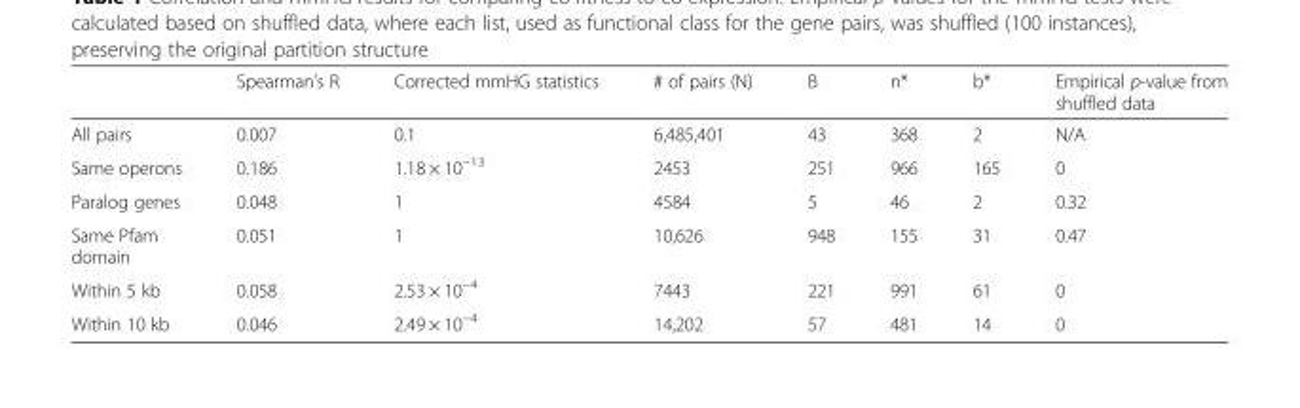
<table><thead><tr><td></td><td>Spearman’s R</td><td>Corrected mmHG statistics</td><td># of pairs (N)</td><td>B</td><td>n*</td><td>b*</td><td>Empirical p-value from shuffled data</td></tr></thead><tbody><tr><td>All pairs</td><td>0.007</td><td>0.1</td><td>6,485,401</td><td>43</td><td>368</td><td>2</td><td>N/A</td></tr><tr><td>Same operons</td><td>0.186</td><td>1.18 × 10<sup>−13</sup></td><td>2453</td><td>251</td><td>966</td><td>165</td><td>0</td></tr><tr><td>Paralog genes</td><td>0.048</td><td>1</td><td>4584</td><td>5</td><td>46</td><td>2</td><td>0.32</td></tr><tr><td>Same Pfam domain</td><td>0.051</td><td>1</td><td>10,626</td><td>948</td><td>155</td><td>31</td><td>0.47</td></tr><tr><td>Within 5 kb</td><td>0.058</td><td>2.53 × 10<sup>−4</sup></td><td>7443</td><td>221</td><td>991</td><td>61</td><td>0</td></tr><tr><td>Within 10 kb</td><td>0.046</td><td>2.49 × 10<sup>−4</sup></td><td>14,202</td><td>57</td><td>481</td><td>14</td><td>0</td></tr></tbody></table>